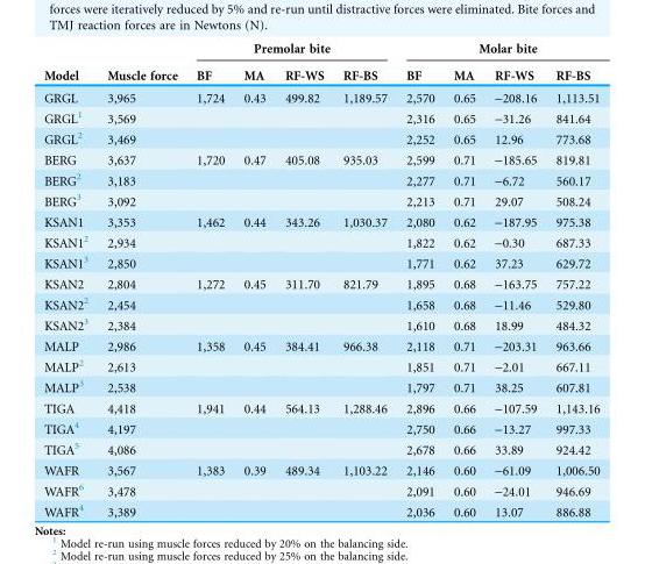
<table><thead><tr><td rowspan="2">Model</td><td rowspan="2">Muscle force</td><td colspan="4">Premolar bite</td><td colspan="4">Molar bite</td></tr><tr><td>BF</td><td>MA</td><td>RF-WS</td><td>RF-BS</td><td>BF</td><td>MA</td><td>RF-WS</td><td>RF-BS</td></tr></thead><tbody><tr><td>GRGL</td><td>3,965</td><td>1,724</td><td>0.43</td><td>499.82</td><td>1,189.57</td><td>2,570</td><td>0.65</td><td>-208.16</td><td>1,113.51</td></tr><tr><td>GRGL<sup>1</sup></td><td>3,569</td><td></td><td></td><td></td><td></td><td>2,316</td><td>0.65</td><td>-31.26</td><td>841.64</td></tr><tr><td>GRGL<sup>2</sup></td><td>3,469</td><td></td><td></td><td></td><td></td><td>2,252</td><td>0.65</td><td>12.96</td><td>773.68</td></tr><tr><td>BERG</td><td>3,637</td><td>1,720</td><td>0.47</td><td>405.08</td><td>935.03</td><td>2,599</td><td>0.71</td><td>-185.65</td><td>819.81</td></tr><tr><td>BERG<sup>2</sup></td><td>3,183</td><td></td><td></td><td></td><td></td><td>2,277</td><td>0.71</td><td>-6.72</td><td>560.17</td></tr><tr><td>BERG<sup>3</sup></td><td>3,092</td><td></td><td></td><td></td><td></td><td>2,213</td><td>0.71</td><td>29.07</td><td>508.24</td></tr><tr><td>KSAN1</td><td>3,353</td><td>1,462</td><td>0.44</td><td>343.26</td><td>1,030.37</td><td>2,080</td><td>0.62</td><td>-187.95</td><td>975.38</td></tr><tr><td>KSAN1<sup>2</sup></td><td>2,934</td><td></td><td></td><td></td><td></td><td>1,822</td><td>0.62</td><td>-0.30</td><td>687.33</td></tr><tr><td>KSAN1<sup>3</sup></td><td>2,850</td><td></td><td></td><td></td><td></td><td>1,771</td><td>0.62</td><td>37.23</td><td>629.72</td></tr><tr><td>KSAN2</td><td>2,804</td><td>1,272</td><td>0.45</td><td>311.70</td><td>821.79</td><td>1,895</td><td>0.68</td><td>-163.75</td><td>757.22</td></tr><tr><td>KSAN2<sup>2</sup></td><td>2,454</td><td></td><td></td><td></td><td></td><td>1,658</td><td>0.68</td><td>-11.46</td><td>529.80</td></tr><tr><td>KSAN2<sup>3</sup></td><td>2,384</td><td></td><td></td><td></td><td></td><td>1,610</td><td>0.68</td><td>18.99</td><td>484.32</td></tr><tr><td>MALP</td><td>2,986</td><td>1,358</td><td>0.45</td><td>384.41</td><td>966.38</td><td>2,118</td><td>0.71</td><td>-203.31</td><td>963.66</td></tr><tr><td>MALP<sup>2</sup></td><td>2,613</td><td></td><td></td><td></td><td></td><td>1,851</td><td>0.71</td><td>-2.01</td><td>667.11</td></tr><tr><td>MALP<sup>3</sup></td><td>2,538</td><td></td><td></td><td></td><td></td><td>1,797</td><td>0.71</td><td>38.25</td><td>607.81</td></tr><tr><td>TIGA</td><td>4,418</td><td>1,941</td><td>0.44</td><td>564.13</td><td>1,288.46</td><td>2,896</td><td>0.66</td><td>-107.59</td><td>1,143.16</td></tr><tr><td>TIGA<sup>4</sup></td><td>4,197</td><td></td><td></td><td></td><td></td><td>2,750</td><td>0.66</td><td>-13.27</td><td>997.33</td></tr><tr><td>TIGA<sup>5</sup></td><td>4,086</td><td></td><td></td><td></td><td></td><td>2,678</td><td>0.66</td><td>33.89</td><td>924.42</td></tr><tr><td>WAFR</td><td>3,567</td><td>1,383</td><td>0.39</td><td>489.34</td><td>1,103.22</td><td>2,146</td><td>0.60</td><td>-61.09</td><td>1,006.50</td></tr><tr><td>WAFR<sup>6</sup></td><td>3,478</td><td></td><td></td><td></td><td></td><td>2,091</td><td>0.60</td><td>-24.01</td><td>946.69</td></tr><tr><td>WAFR<sup>4</sup></td><td>3,389</td><td></td><td></td><td></td><td></td><td>2,036</td><td>0.60</td><td>13.07</td><td>886.88</td></tr></tbody></table>